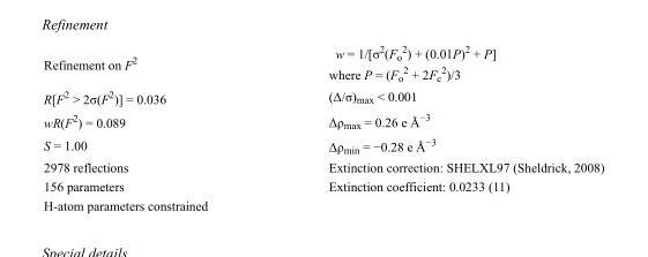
<table><tbody><tr><td>Refinement on F<sup>2</sup></td><td>w = 1/[σ<sup>2</sup>(F<sub>o</sub> <sup>2</sup>) + (0.01P)<sup>2</sup> + P] where P = (F<sub>o</sub> <sup>2</sup> + 2F<sub>c</sub> <sup>2</sup>)/3</td></tr><tr><td>R[F<sup>2</sup> &gt; 2σ(F<sup>2</sup>)] = 0.036</td><td>(Δ/σ)<sub>max</sub> &lt; 0.001</td></tr><tr><td>wR(F<sup>2</sup>) = 0.089</td><td>Δρ<sub>max</sub> = 0.26 e Å<sup>−3</sup></td></tr><tr><td>S = 1.00</td><td>Δρ<sub>min</sub> = −0.28 e Å<sup>−3</sup></td></tr><tr><td>2978 reflections</td><td>Extinction correction: SHELXL97 (Sheldrick, 2008)</td></tr><tr><td>156 parameters</td><td>Extinction coefficient: 0.0233 (11)</td></tr><tr><td>H-atom parameters constrained</td><td></td></tr></tbody></table>